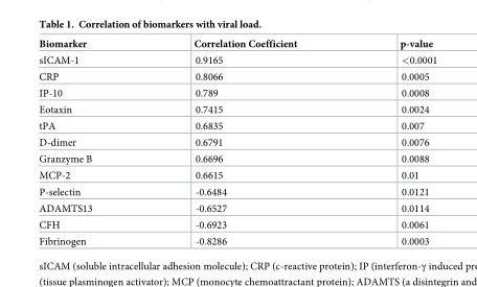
<table><thead><tr><td>Biomarker</td><td>Correlation Coefficient</td><td>p-value</td></tr></thead><tbody><tr><td>sICAM-1</td><td>0.9165</td><td>&lt;0.0001</td></tr><tr><td>CRP</td><td>0.8066</td><td>0.0005</td></tr><tr><td>IP-10</td><td>0.789</td><td>0.0008</td></tr><tr><td>Eotaxin</td><td>0.7415</td><td>0.0024</td></tr><tr><td>tPA</td><td>0.6835</td><td>0.007</td></tr><tr><td>D-dimer</td><td>0.6791</td><td>0.0076</td></tr><tr><td>Granzyme B</td><td>0.6696</td><td>0.0088</td></tr><tr><td>MCP-2</td><td>0.6615</td><td>0.01</td></tr><tr><td>P-selectin</td><td>-0.6484</td><td>0.0121</td></tr><tr><td>ADAMTS13</td><td>-0.6527</td><td>0.0114</td></tr><tr><td>CFH</td><td>-0.6923</td><td>0.0061</td></tr><tr><td>Fibrinogen</td><td>-0.8286</td><td>0.0003</td></tr></tbody></table>